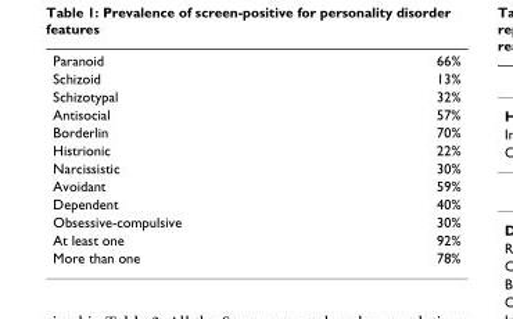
<table><tbody><tr><td>Paranoid</td><td>66%</td></tr><tr><td>Schizoid</td><td>13%</td></tr><tr><td>Schizotypal</td><td>32%</td></tr><tr><td>Antisocial</td><td>57%</td></tr><tr><td>Borderlin</td><td>70%</td></tr><tr><td>Histrionic</td><td>22%</td></tr><tr><td>Narcissistic</td><td>30%</td></tr><tr><td>Avoidant</td><td>59%</td></tr><tr><td>Dependent</td><td>40%</td></tr><tr><td>Obsessive-compulsive</td><td>30%</td></tr><tr><td>At least one</td><td>92%</td></tr><tr><td>More than one</td><td>78%</td></tr></tbody></table>